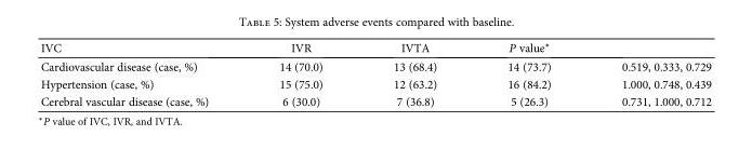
<table><thead><tr><td>IVC</td><td>IVR</td><td>IVTA</td><td>P value∗</td><td></td></tr></thead><tbody><tr><td>Cardiovascular disease (case, %)</td><td>14 (70.0)</td><td>13 (68.4)</td><td>14 (73.7)</td><td>0.519, 0.333, 0.729</td></tr><tr><td>Hypertension (case, %)</td><td>15 (75.0)</td><td>12 (63.2)</td><td>16 (84.2)</td><td>1.000, 0.748, 0.439</td></tr><tr><td>Cerebral vascular disease (case, %)</td><td>6 (30.0)</td><td>7 (36.8)</td><td>5 (26.3)</td><td>0.731, 1.000, 0.712</td></tr></tbody></table>